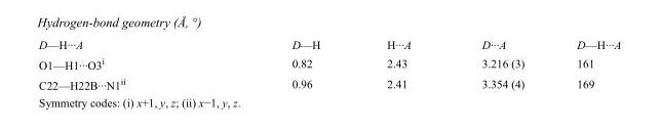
<table><tbody><tr><td>D—H···A</td><td>D—H</td><td>H···A</td><td>D···A</td><td>D—H···A</td></tr><tr><td>O1—H1···O3<sup>i</sup></td><td>0.82</td><td>2.43</td><td>3.216 (3)</td><td>161</td></tr><tr><td>C22—H22B···N1<sup>ii</sup></td><td>0.96</td><td>2.41</td><td>3.354 (4)</td><td>169</td></tr></tbody></table>